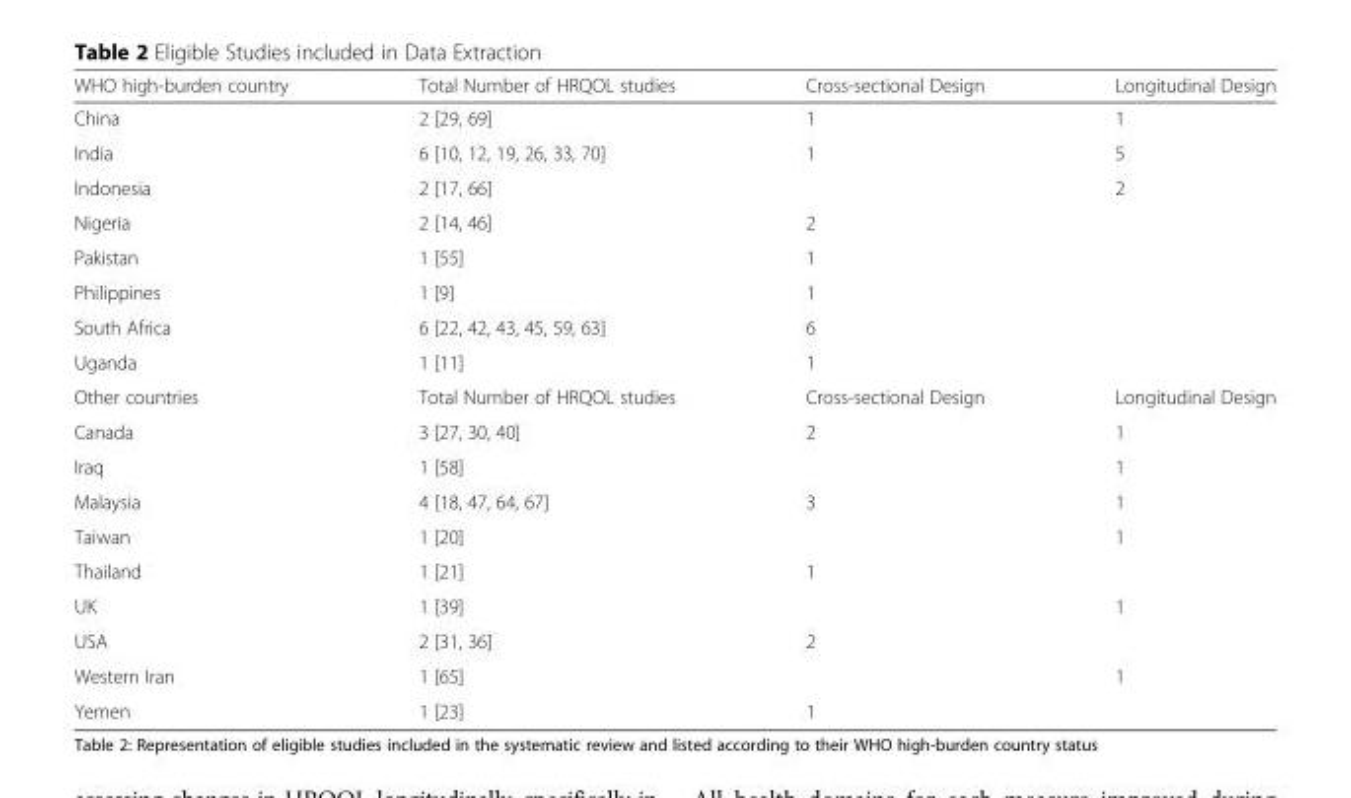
<table><thead><tr><td>WHO high-burden country</td><td>Total Number of HRQOL studies</td><td>Cross-sectional Design</td><td>Longitudinal Design</td></tr></thead><tbody><tr><td>China</td><td>2 [29, 69]</td><td>1</td><td>1</td></tr><tr><td>India</td><td>6 [10, 12, 19, 26, 33, 70]</td><td>1</td><td>5</td></tr><tr><td>Indonesia</td><td>2 [17, 66]</td><td></td><td>2</td></tr><tr><td>Nigeria</td><td>2 [14, 46]</td><td>2</td><td></td></tr><tr><td>Pakistan</td><td>1 [55]</td><td>1</td><td></td></tr><tr><td>Philippines</td><td>1 [9]</td><td>1</td><td></td></tr><tr><td>South Africa</td><td>6 [22, 42, 43, 45, 59, 63]</td><td>6</td><td></td></tr><tr><td>Uganda</td><td>1 [11]</td><td>1</td><td></td></tr><tr><td>Other countries</td><td>Total Number of HRQOL studies</td><td>Cross-sectional Design</td><td>Longitudinal Design</td></tr><tr><td>Canada</td><td>3 [27, 30, 40]</td><td>2</td><td>1</td></tr><tr><td>Iraq</td><td>1 [58]</td><td></td><td>1</td></tr><tr><td>Malaysia</td><td>4 [18, 47, 64, 67]</td><td>3</td><td>1</td></tr><tr><td>Taiwan</td><td>1 [20]</td><td></td><td>1</td></tr><tr><td>Thailand</td><td>1 [21]</td><td>1</td><td></td></tr><tr><td>UK</td><td>1 [39]</td><td></td><td>1</td></tr><tr><td>USA</td><td>2 [31, 36]</td><td>2</td><td></td></tr><tr><td>Western Iran</td><td>1 [65]</td><td></td><td>1</td></tr><tr><td>Yemen</td><td>1 [23]</td><td>1</td><td></td></tr></tbody></table>